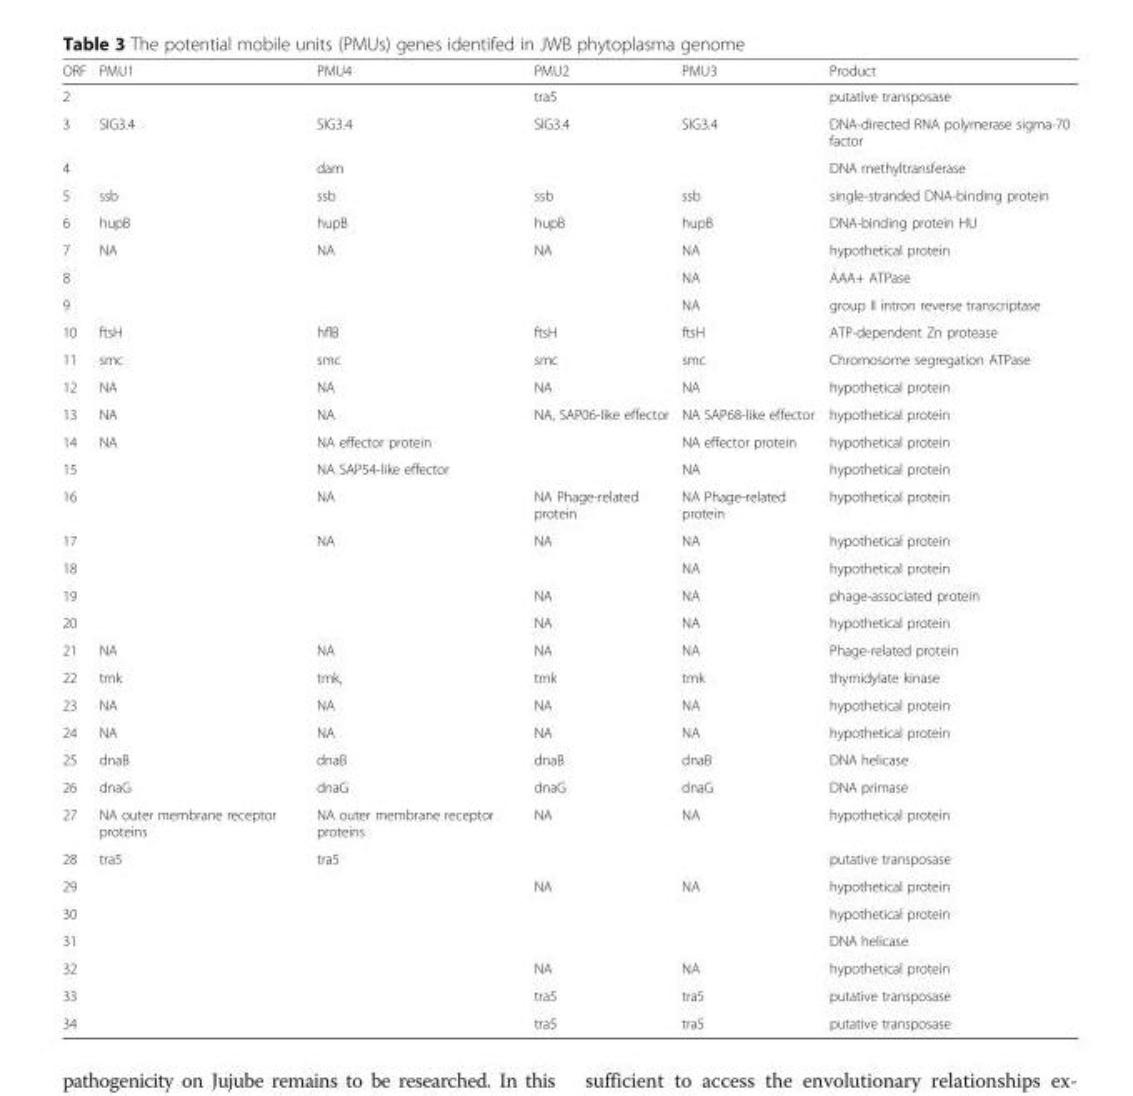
<table><thead><tr><td>ORF</td><td>PMU1</td><td>PMU4</td><td>PMU2</td><td>PMU3</td><td>Product</td></tr></thead><tbody><tr><td>2</td><td></td><td></td><td>tra5</td><td></td><td>putative transposase</td></tr><tr><td>3</td><td>SIG3.4</td><td>SIG3.4</td><td>SIG3.4</td><td>SIG3.4</td><td>DNA-directed RNA polymerase sigma-70 factor</td></tr><tr><td>4</td><td></td><td>dam</td><td></td><td></td><td>DNA methyltransferase</td></tr><tr><td>5</td><td>ssb</td><td>ssb</td><td>ssb</td><td>ssb</td><td>single-stranded DNA-binding protein</td></tr><tr><td>6</td><td>hupB</td><td>hupB</td><td>hupB</td><td>hupB</td><td>DNA-binding protein HU</td></tr><tr><td>7</td><td>NA</td><td>NA</td><td>NA</td><td>NA</td><td>hypothetical protein</td></tr><tr><td>8</td><td></td><td></td><td></td><td>NA</td><td>AAA+ ATPase</td></tr><tr><td>9</td><td></td><td></td><td></td><td>NA</td><td>group II intron reverse transcriptase</td></tr><tr><td>10</td><td>ftsH</td><td>hflB</td><td>ftsH</td><td>ftsH</td><td>ATP-dependent Zn protease</td></tr><tr><td>11</td><td>smc</td><td>smc</td><td>smc</td><td>smc</td><td>Chromosome segregation ATPase</td></tr><tr><td>12</td><td>NA</td><td>NA</td><td>NA</td><td>NA</td><td>hypothetical protein</td></tr><tr><td>13</td><td>NA</td><td>NA</td><td>NA, SAP06-like effector</td><td>NA SAP68-like effector</td><td>hypothetical protein</td></tr><tr><td>14</td><td>NA</td><td>NA effector protein</td><td></td><td>NA effector protein</td><td>hypothetical protein</td></tr><tr><td>15</td><td></td><td>NA SAP54-like effector</td><td></td><td>NA</td><td>hypothetical protein</td></tr><tr><td>16</td><td></td><td>NA</td><td>NA Phage-related protein</td><td>NA Phage-related protein</td><td>hypothetical protein</td></tr><tr><td>17</td><td></td><td>NA</td><td>NA</td><td>NA</td><td>hypothetical protein</td></tr><tr><td>18</td><td></td><td></td><td></td><td>NA</td><td>hypothetical protein</td></tr><tr><td>19</td><td></td><td></td><td>NA</td><td>NA</td><td>phage-associated protein</td></tr><tr><td>20</td><td></td><td></td><td>NA</td><td>NA</td><td>hypothetical protein</td></tr><tr><td>21</td><td>NA</td><td>NA</td><td>NA</td><td>NA</td><td>Phage-related protein</td></tr><tr><td>22</td><td>tmk</td><td>tmk,</td><td>tmk</td><td>tmk</td><td>thymidylate kinase</td></tr><tr><td>23</td><td>NA</td><td>NA</td><td>NA</td><td>NA</td><td>hypothetical protein</td></tr><tr><td>24</td><td>NA</td><td>NA</td><td>NA</td><td>NA</td><td>hypothetical protein</td></tr><tr><td>25</td><td>dnaB</td><td>dnaB</td><td>dnaB</td><td>dnaB</td><td>DNA helicase</td></tr><tr><td>26</td><td>dnaG</td><td>dnaG</td><td>dnaG</td><td>dnaG</td><td>DNA primase</td></tr><tr><td>27</td><td>NA outer membrane receptor proteins</td><td>NA outer membrane receptor proteins</td><td>NA</td><td>NA</td><td>hypothetical protein</td></tr><tr><td>28</td><td>tra5</td><td>tra5</td><td></td><td></td><td>putative transposase</td></tr><tr><td>29</td><td></td><td></td><td>NA</td><td>NA</td><td>hypothetical protein</td></tr><tr><td>30</td><td></td><td></td><td></td><td></td><td>hypothetical protein</td></tr><tr><td>31</td><td></td><td></td><td></td><td></td><td>DNA helicase</td></tr><tr><td>32</td><td></td><td></td><td>NA</td><td>NA</td><td>hypothetical protein</td></tr><tr><td>33</td><td></td><td></td><td>tra5</td><td>tra5</td><td>putative transposase</td></tr><tr><td>34</td><td></td><td></td><td>tra5</td><td>tra5</td><td>putative transposase</td></tr></tbody></table>